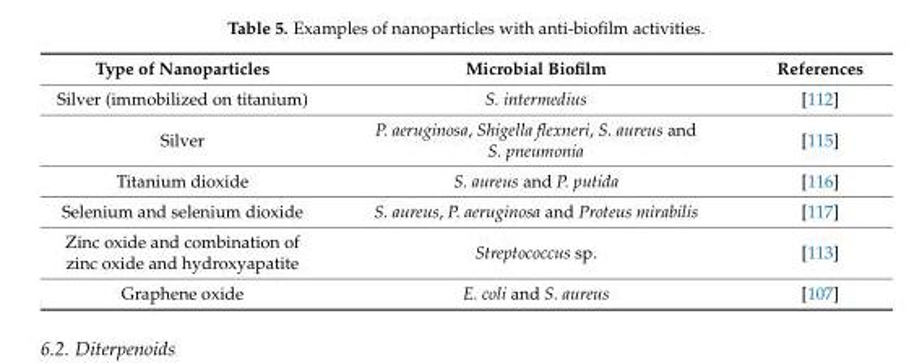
<table><thead><tr><td>Type of Nanoparticles</td><td>Microbial Biofilm</td><td>References</td></tr></thead><tbody><tr><td>Silver (immobilized on titanium)</td><td>S. intermedius</td><td>[112]</td></tr><tr><td>Silver</td><td>P. aeruginosa, Shigella flexneri, S. aureus and S. pneumonia</td><td>[115]</td></tr><tr><td>Titanium dioxide</td><td>S. aureus and P. putida</td><td>[116]</td></tr><tr><td>Selenium and selenium dioxide</td><td>S. aureus, P. aeruginosa and Proteus mirabilis</td><td>[117]</td></tr><tr><td>Zinc oxide and combination of zinc oxide and hydroxyapatite</td><td>Streptococcus sp.</td><td>[113]</td></tr><tr><td>Graphene oxide</td><td>E. coli and S. aureus</td><td>[107]</td></tr></tbody></table>